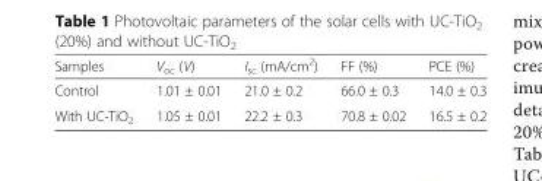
<table><thead><tr><td>Samples</td><td>V<sub>oc</sub> (V)</td><td>I<sub>sc</sub> (mA/cm<sup>2</sup>)</td><td>FF (%)</td><td>PCE (%)</td></tr></thead><tbody><tr><td>Control</td><td>1.01 ± 0.01</td><td>21.0 ± 0.2</td><td>66.0 ± 0.3</td><td>14.0 ± 0.3</td></tr><tr><td>With UC-TiO<sub>2</sub></td><td>1.05 ± 0.01</td><td>22.2 ± 0.3</td><td>70.8 ± 0.02</td><td>16.5 ± 0.2</td></tr></tbody></table>